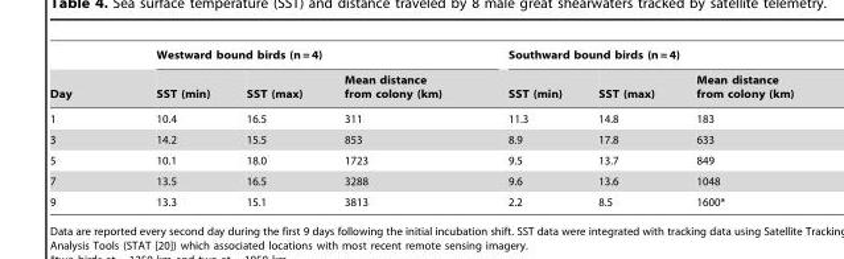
<table><thead><tr><td rowspan="2">Day</td><td colspan="3">Westward bound birds (n = 4)</td><td colspan="3">Southward bound birds (n = 4)</td></tr><tr><td>SST (min)</td><td>SST (max)</td><td>Mean distance from colony (km)</td><td>SST (min)</td><td>SST (max)</td><td>Mean distance from colony (km)</td></tr></thead><tbody><tr><td>1</td><td>10.4</td><td>16.5</td><td>311</td><td>11.3</td><td>14.8</td><td>183</td></tr><tr><td>3</td><td>14.2</td><td>15.5</td><td>853</td><td>8.9</td><td>17.8</td><td>633</td></tr><tr><td>5</td><td>10.1</td><td>18.0</td><td>1723</td><td>9.5</td><td>13.7</td><td>849</td></tr><tr><td>7</td><td>13.5</td><td>16.5</td><td>3288</td><td>9.6</td><td>13.6</td><td>1048</td></tr><tr><td>9</td><td>13.3</td><td>15.1</td><td>3813</td><td>2.2</td><td>8.5</td><td>1600*</td></tr></tbody></table>